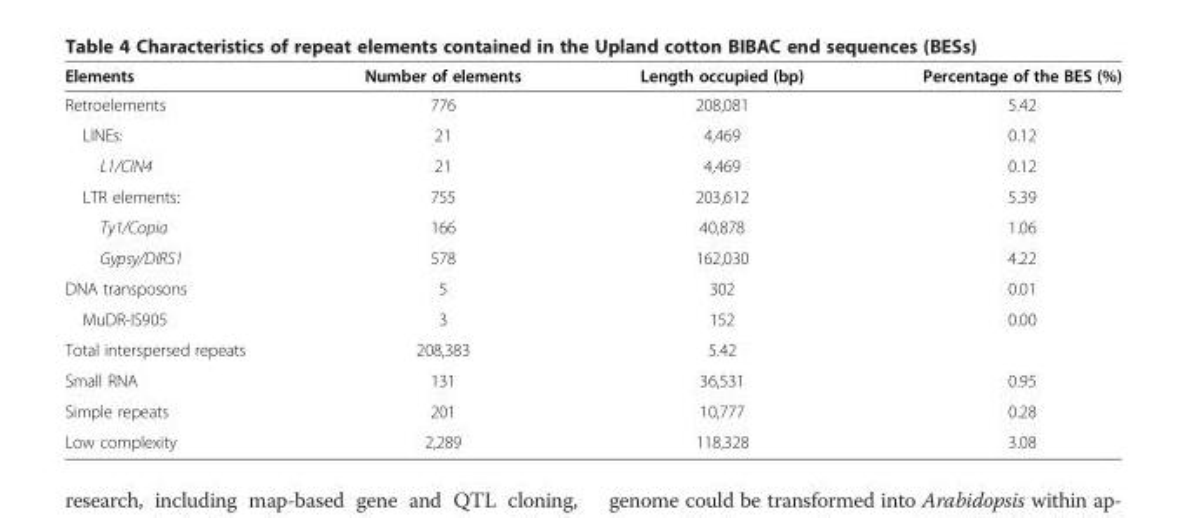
<table><thead><tr><td>Elements</td><td>Number of elements</td><td>Length occupied (bp)</td><td>Percentage of the BES (%)</td></tr></thead><tbody><tr><td>Retroelements</td><td>776</td><td>208,081</td><td>5.42</td></tr><tr><td>LINEs:</td><td>21</td><td>4,469</td><td>0.12</td></tr><tr><td>L1/CIN4</td><td>21</td><td>4,469</td><td>0.12</td></tr><tr><td>LTR elements:</td><td>755</td><td>203,612</td><td>5.39</td></tr><tr><td>Ty1/Copia</td><td>166</td><td>40,878</td><td>1.06</td></tr><tr><td>Gypsy/DIRS1</td><td>578</td><td>162,030</td><td>4.22</td></tr><tr><td>DNA transposons</td><td>5</td><td>302</td><td>0.01</td></tr><tr><td>MuDR-IS905</td><td>3</td><td>152</td><td>0.00</td></tr><tr><td>Total interspersed repeats</td><td>208,383</td><td>5.42</td><td></td></tr><tr><td>Small RNA</td><td>131</td><td>36,531</td><td>0.95</td></tr><tr><td>Simple repeats</td><td>201</td><td>10,777</td><td>0.28</td></tr><tr><td>Low complexity</td><td>2,289</td><td>118,328</td><td>3.08</td></tr></tbody></table>